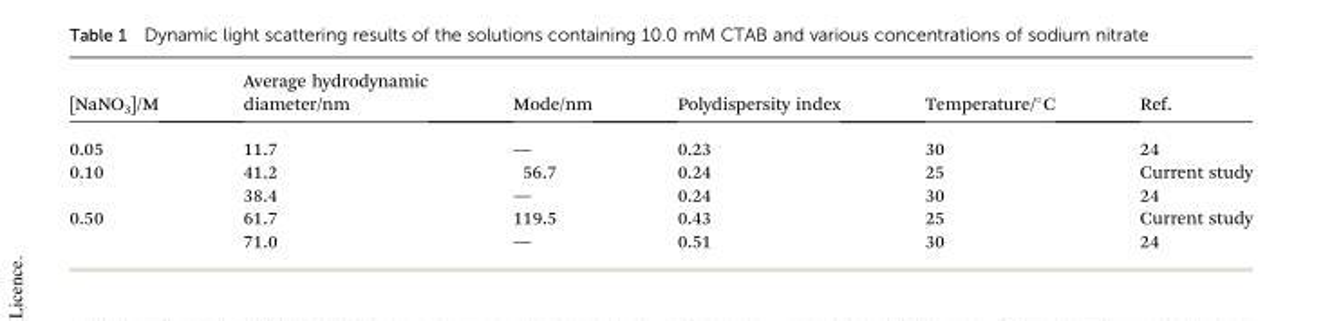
<table><thead><tr><td>[NaNO<sub>3</sub>]/M</td><td>Average hydrodynamic diameter/nm</td><td>Mode/nm</td><td>Polydispersity index</td><td>Temperature/°C</td><td>Ref.</td></tr></thead><tbody><tr><td>0.05</td><td>11.7</td><td>—</td><td>0.23</td><td>30</td><td>24</td></tr><tr><td rowspan="2">0.10</td><td>41.2</td><td>56.7</td><td>0.24</td><td>25</td><td>Current study</td></tr><tr><td>38.4</td><td>—</td><td>0.24</td><td>30</td><td>24</td></tr><tr><td rowspan="2">0.50</td><td>61.7</td><td>119.5</td><td>0.43</td><td>25</td><td>Current study</td></tr><tr><td>71.0</td><td>—</td><td>0.51</td><td>30</td><td>24</td></tr></tbody></table>